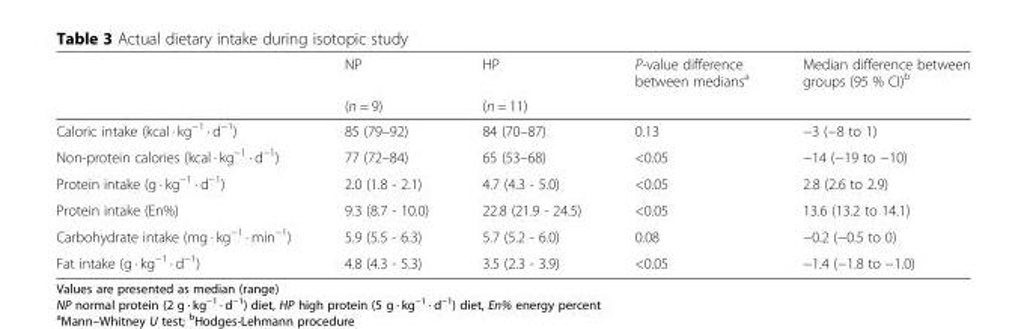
<table><thead><tr><td rowspan="2"></td><td rowspan="2">NP (n = 9)</td><td rowspan="2">HP (n = 11)</td><td rowspan="2">P-value difference between medians<sup>a</sup></td><td rowspan="2">Median difference between groups (95 % CI)<sup>b</sup></td></tr><tr></tr></thead><tbody><tr><td>Caloric intake (kcal · kg<sup>−1</sup> · d<sup>−1</sup>)</td><td>85 (79–92)</td><td>84 (70–87)</td><td>0.13</td><td>−3 (−8 to 1)</td></tr><tr><td>Non-protein calories (kcal · kg<sup>−1</sup> · d<sup>−1</sup>)</td><td>77 (72–84)</td><td>65 (53–68)</td><td>&lt;0.05</td><td>−14 (−19 to −10)</td></tr><tr><td>Protein intake (g · kg<sup>−1</sup> · d<sup>−1</sup>)</td><td>2.0 (1.8 - 2.1)</td><td>4.7 (4.3 - 5.0)</td><td>&lt;0.05</td><td>2.8 (2.6 to 2.9)</td></tr><tr><td>Protein intake (En%)</td><td>9.3 (8.7 - 10.0)</td><td>22.8 (21.9 - 24.5)</td><td>&lt;0.05</td><td>13.6 (13.2 to 14.1)</td></tr><tr><td>Carbohydrate intake (mg · kg<sup>−1</sup> · min<sup>−1</sup>)</td><td>5.9 (5.5 - 6.3)</td><td>5.7 (5.2 - 6.0)</td><td>0.08</td><td>−0.2 (−0.5 to 0)</td></tr><tr><td>Fat intake (g · kg<sup>−1</sup> · d<sup>−1</sup>)</td><td>4.8 (4.3 - 5.3)</td><td>3.5 (2.3 - 3.9)</td><td>&lt;0.05</td><td>−1.4 (−1.8 to −1.0)</td></tr></tbody></table>